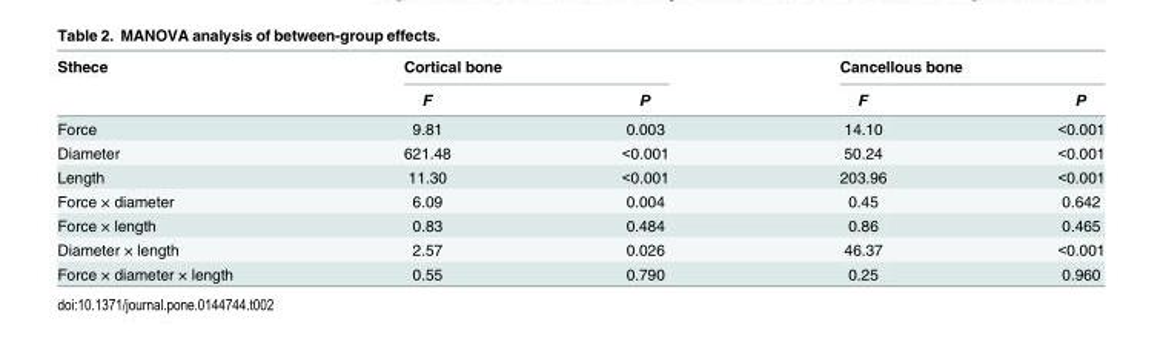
<table><thead><tr><td rowspan="2">Sthece</td><td colspan="2">Cortical bone</td><td colspan="2">Cancellous bone</td></tr><tr><td>F</td><td>P</td><td>F</td><td>P</td></tr></thead><tbody><tr><td>Force</td><td>9.81</td><td>0.003</td><td>14.10</td><td>&lt;0.001</td></tr><tr><td>Diameter</td><td>621.48</td><td>&lt;0.001</td><td>50.24</td><td>&lt;0.001</td></tr><tr><td>Length</td><td>11.30</td><td>&lt;0.001</td><td>203.96</td><td>&lt;0.001</td></tr><tr><td>Force × diameter</td><td>6.09</td><td>0.004</td><td>0.45</td><td>0.642</td></tr><tr><td>Force × length</td><td>0.83</td><td>0.484</td><td>0.86</td><td>0.465</td></tr><tr><td>Diameter × length</td><td>2.57</td><td>0.026</td><td>46.37</td><td>&lt;0.001</td></tr><tr><td>Force × diameter × length</td><td>0.55</td><td>0.790</td><td>0.25</td><td>0.960</td></tr></tbody></table>